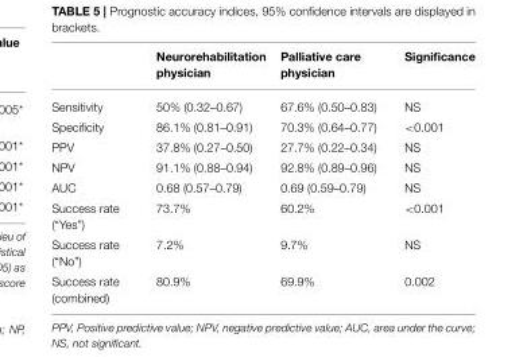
<table><thead><tr><td></td><td>Neurorehabilitation physician</td><td>Palliative care physician</td><td>Significance</td></tr></thead><tbody><tr><td>Sensitivity</td><td>50% (0.32–0.67)</td><td>67.6% (0.50–0.83)</td><td>NS</td></tr><tr><td>Specificity</td><td>86.1% (0.81–0.91)</td><td>70.3% (0.64–0.77)</td><td>&lt;0.001</td></tr><tr><td>PPV</td><td>37.8% (0.27–0.50)</td><td>27.7% (0.22–0.34)</td><td>NS</td></tr><tr><td>NPV</td><td>91.1% (0.88–0.94)</td><td>92.8% (0.89–0.96)</td><td>NS</td></tr><tr><td>AUC</td><td>0.68 (0.57–0.79)</td><td>0.69 (0.59–0.79)</td><td>NS</td></tr><tr><td>Success rate (“Yes”)</td><td>73.7%</td><td>60.2%</td><td>&lt;0.001</td></tr><tr><td>Success rate (“No”)</td><td>7.2%</td><td>9.7%</td><td>NS</td></tr><tr><td>Success rate (combined)</td><td>80.9%</td><td>69.9%</td><td>0.002</td></tr></tbody></table>